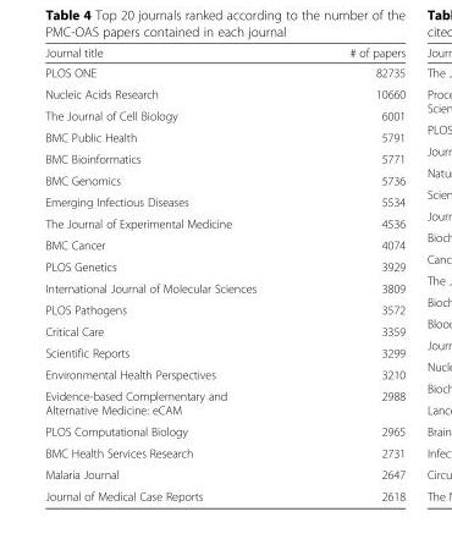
<table><thead><tr><td>Journal title</td><td># of papers</td></tr></thead><tbody><tr><td>PLOS ONE</td><td>82735</td></tr><tr><td>Nucleic Acids Research</td><td>10660</td></tr><tr><td>The Journal of Cell Biology</td><td>6001</td></tr><tr><td>BMC Public Health</td><td>5791</td></tr><tr><td>BMC Bioinformatics</td><td>5771</td></tr><tr><td>BMC Genomics</td><td>5736</td></tr><tr><td>Emerging Infectious Diseases</td><td>5534</td></tr><tr><td>The Journal of Experimental Medicine</td><td>4536</td></tr><tr><td>BMC Cancer</td><td>4074</td></tr><tr><td>PLOS Genetics</td><td>3929</td></tr><tr><td>International Journal of Molecular Sciences</td><td>3809</td></tr><tr><td>PLOS Pathogens</td><td>3572</td></tr><tr><td>Critical Care</td><td>3359</td></tr><tr><td>Scientific Reports</td><td>3299</td></tr><tr><td>Environmental Health Perspectives</td><td>3210</td></tr><tr><td>Evidence-based Complementary and Alternative Medicine: eCAM</td><td>2988</td></tr><tr><td>PLOS Computational Biology</td><td>2965</td></tr><tr><td>BMC Health Services Research</td><td>2731</td></tr><tr><td>Malaria Journal</td><td>2647</td></tr><tr><td>Journal of Medical Case Reports</td><td>2618</td></tr></tbody></table>